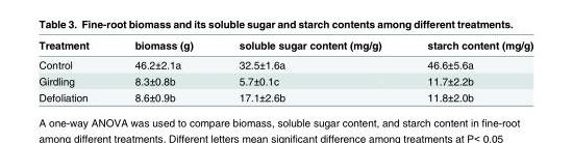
<table><thead><tr><td>Treatment</td><td>biomass (g)</td><td>soluble sugar content (mg/g)</td><td>starch content (mg/g)</td></tr></thead><tbody><tr><td>Control</td><td>46.2±2.1a</td><td>32.5±1.6a</td><td>46.6±5.6a</td></tr><tr><td>Girdling</td><td>8.3±0.8b</td><td>5.7±0.1c</td><td>11.7±2.2b</td></tr><tr><td>Defoliation</td><td>8.6±0.9b</td><td>17.1±2.6b</td><td>11.8±2.0b</td></tr></tbody></table>